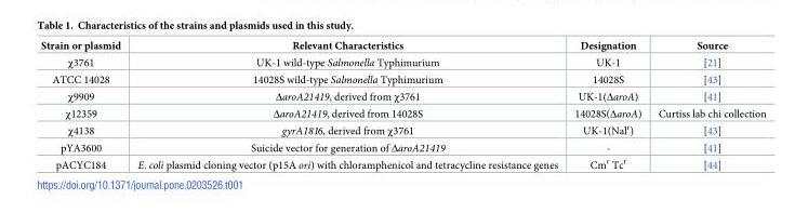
<table><thead><tr><td>Strain or plasmid</td><td>Relevant Characteristics</td><td>Designation</td><td>Source</td></tr></thead><tbody><tr><td>χ3761</td><td>UK-1 wild-type Salmonella Typhimurium</td><td>UK-1</td><td>[21]</td></tr><tr><td>ATCC 14028</td><td>14028S wild-type Salmonella Typhimurium</td><td>14028S</td><td>[43]</td></tr><tr><td>χ9909</td><td>ΔaroA21419, derived from χ3761</td><td>UK-1(ΔaroA)</td><td>[41]</td></tr><tr><td>χ12359</td><td>ΔaroA21419, derived from 14028S</td><td>14028S(ΔaroA)</td><td>Curtiss lab chi collection</td></tr><tr><td>χ4138</td><td>gyrA1816, derived from χ3761</td><td>UK-1(Nal<sup>r</sup>)</td><td>[43]</td></tr><tr><td>pYA3600</td><td>Suicide vector for generation of ΔaroA21419</td><td>-</td><td>[41]</td></tr><tr><td>pACYC184</td><td>E. coli plasmid cloning vector (p15A ori) with chloramphenicol and tetracycline resistance genes</td><td>Cm<sup>r</sup> Tc<sup>r</sup></td><td>[44]</td></tr></tbody></table>